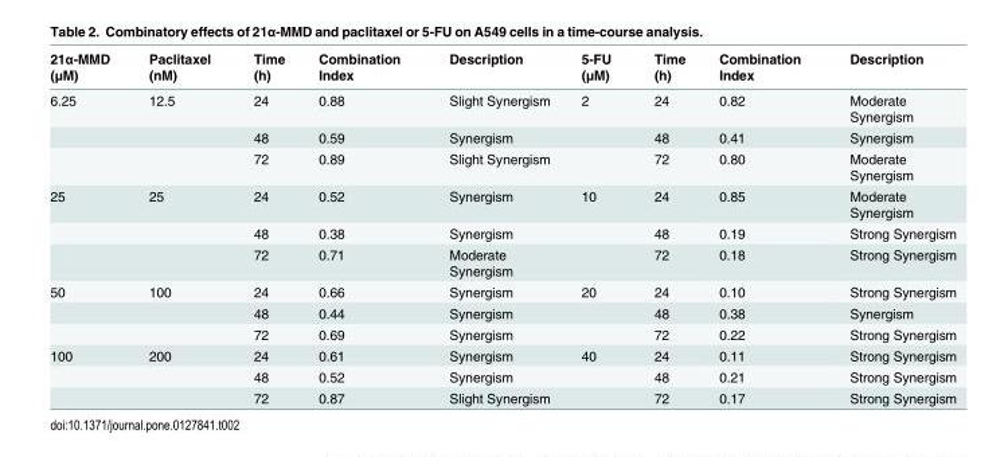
<table><thead><tr><td>21α-MMD (μM)</td><td>Paclitaxel (nM)</td><td>Time (h)</td><td>Combination Index</td><td>Description</td><td>5-FU (μM)</td><td>Time (h)</td><td>Combination Index</td><td>Description</td></tr></thead><tbody><tr><td rowspan="3">6.25</td><td>12.5</td><td>24</td><td>0.88</td><td>Slight Synergism</td><td>2</td><td>24</td><td>0.82</td><td>Moderate Synergism</td></tr><tr><td></td><td>48</td><td>0.59</td><td>Synergism</td><td></td><td>48</td><td>0.41</td><td>Synergism</td></tr><tr><td></td><td>72</td><td>0.89</td><td>Slight Synergism</td><td></td><td>72</td><td>0.80</td><td>Moderate Synergism</td></tr><tr><td rowspan="3">25</td><td>25</td><td>24</td><td>0.52</td><td>Synergism</td><td>10</td><td>24</td><td>0.85</td><td>Moderate Synergism</td></tr><tr><td></td><td>48</td><td>0.38</td><td>Synergism</td><td></td><td>48</td><td>0.19</td><td>Strong Synergism</td></tr><tr><td></td><td>72</td><td>0.71</td><td>Moderate Synergism</td><td></td><td>72</td><td>0.18</td><td>Strong Synergism</td></tr><tr><td rowspan="3">50</td><td>100</td><td>24</td><td>0.66</td><td>Synergism</td><td>20</td><td>24</td><td>0.10</td><td>Strong Synergism</td></tr><tr><td></td><td>48</td><td>0.44</td><td>Synergism</td><td></td><td>48</td><td>0.38</td><td>Synergism</td></tr><tr><td></td><td>72</td><td>0.69</td><td>Synergism</td><td></td><td>72</td><td>0.22</td><td>Strong Synergism</td></tr><tr><td rowspan="3">100</td><td>200</td><td>24</td><td>0.61</td><td>Synergism</td><td>40</td><td>24</td><td>0.11</td><td>Strong Synergism</td></tr><tr><td></td><td>48</td><td>0.52</td><td>Synergism</td><td></td><td>48</td><td>0.21</td><td>Strong Synergism</td></tr><tr><td></td><td>72</td><td>0.87</td><td>Slight Synergism</td><td></td><td>72</td><td>0.17</td><td>Strong Synergism</td></tr></tbody></table>